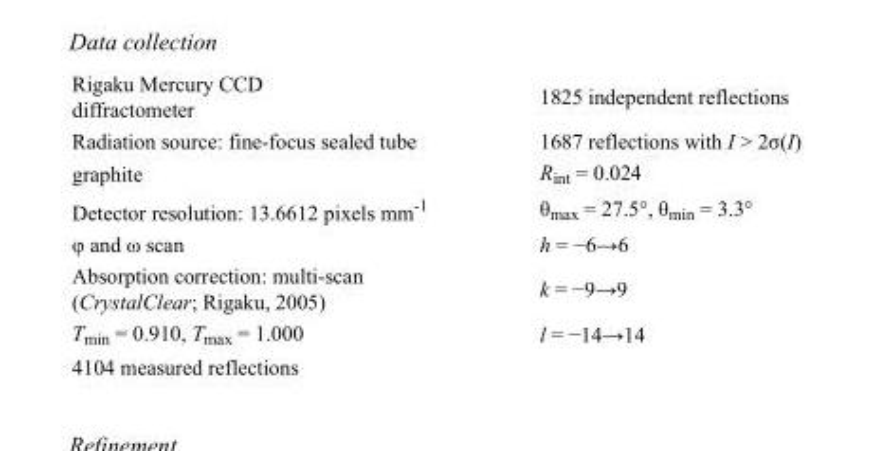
<table><tbody><tr><td>Rigaku Mercury CCD diffractometer</td><td>1825 independent reflections</td></tr><tr><td>Radiation source: fine-focus sealed tube</td><td>1687 reflections with I &gt; 2σ(I)</td></tr><tr><td>graphite</td><td>R<sub>int</sub> = 0.024</td></tr><tr><td>Detector resolution: 13.6612 pixels mm<sup>-1</sup></td><td>θ<sub>max</sub> = 27.5°, θ<sub>min</sub> = 3.3°</td></tr><tr><td>φ and ω scan</td><td>h = −6→6</td></tr><tr><td>Absorption correction: multi-scan (CrystalClear; Rigaku, 2005)</td><td>k = −9→9</td></tr><tr><td>T<sub>min</sub> = 0.910, T<sub>max</sub> = 1.000</td><td>l = −14→14</td></tr><tr><td>4104 measured reflections</td><td></td></tr></tbody></table>